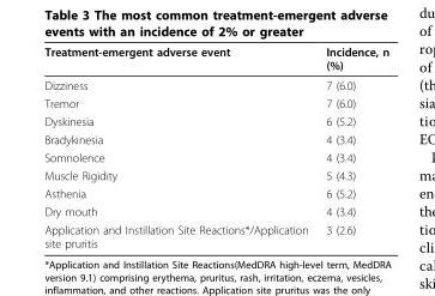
<table><thead><tr><td>Treatment-emergent adverse event</td><td>Incidence, n (%)</td></tr></thead><tbody><tr><td>Dizziness</td><td>7 (6.0)</td></tr><tr><td>Tremor</td><td>7 (6.0)</td></tr><tr><td>Dyskinesia</td><td>6 (5.2)</td></tr><tr><td>Bradykinesia</td><td>4 (3.4)</td></tr><tr><td>Somnolence</td><td>4 (3.4)</td></tr><tr><td>Muscle Rigidity</td><td>5 (4.3)</td></tr><tr><td>Asthenia</td><td>6 (5.2)</td></tr><tr><td>Dry mouth</td><td>4 (3.4)</td></tr><tr><td>Application and Instillation Site Reactions*/Application site pruritis</td><td>3 (2.6)</td></tr></tbody></table>